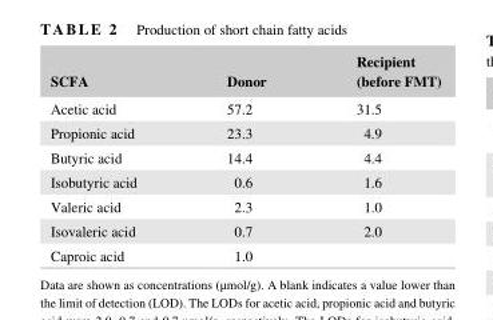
<table><thead><tr><td>SCFA</td><td>Donor</td><td>Recipient (before FMT)</td></tr></thead><tbody><tr><td>Acetic acid</td><td>57.2</td><td>31.5</td></tr><tr><td>Propionic acid</td><td>23.3</td><td>4.9</td></tr><tr><td>Butyric acid</td><td>14.4</td><td>4.4</td></tr><tr><td>Isobutyric acid</td><td>0.6</td><td>1.6</td></tr><tr><td>Valeric acid</td><td>2.3</td><td>1.0</td></tr><tr><td>Isovaleric acid</td><td>0.7</td><td>2.0</td></tr><tr><td>Caproic acid</td><td>1.0</td><td></td></tr></tbody></table>